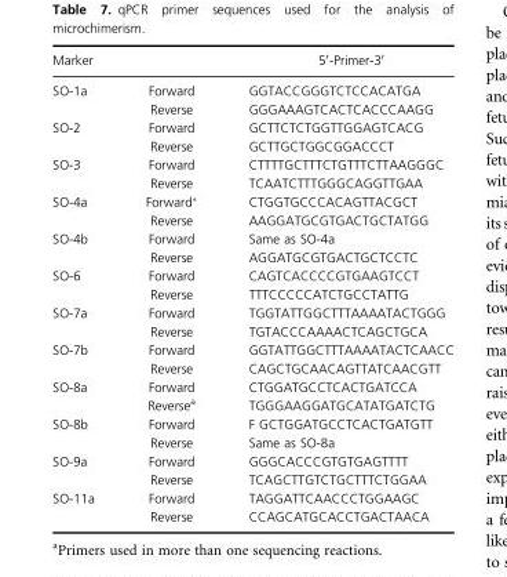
<table><thead><tr><td>Marker</td><td></td><td>5′-Primer-3′</td></tr></thead><tbody><tr><td rowspan="2">SO-1a</td><td>Forward</td><td>GGTACCGGGTCTCCACATGA</td></tr><tr><td>Reverse</td><td>GGGAAAGTCACTCACCCAAGG</td></tr><tr><td rowspan="2">SO-2</td><td>Forward</td><td>GCTTCTCTGGTTGGAGTCACG</td></tr><tr><td>Reverse</td><td>GCTTGCTGGCGGACCCT</td></tr><tr><td rowspan="2">SO-3</td><td>Forward</td><td>CTTTTGCTTTCTGTTTCTTAAGGGC</td></tr><tr><td>Reverse</td><td>TCAATCTTTGGGCAGGTTGAA</td></tr><tr><td rowspan="2">SO-4a</td><td>Forward<sup>a</sup></td><td>CTGGTGCCCACAGTTACGCT</td></tr><tr><td>Reverse</td><td>AAGGATGCGTGACTGCTATGG</td></tr><tr><td rowspan="2">SO-4b</td><td>Forward</td><td>Same as SO-4a</td></tr><tr><td>Reverse</td><td>AGGATGCGTGACTGCTCCTC</td></tr><tr><td rowspan="2">SO-6</td><td>Forward</td><td>CAGTCACCCCGTGAAGTCCT</td></tr><tr><td>Reverse</td><td>TTTCCCCCATCTGCCTATTG</td></tr><tr><td rowspan="2">SO-7a</td><td>Forward</td><td>TGGTATTGGCTTTAAAATACTGGG</td></tr><tr><td>Reverse</td><td>TGTACCCAAAACTCAGCTGCA</td></tr><tr><td rowspan="2">SO-7b</td><td>Forward</td><td>GGTATTGGCTTTAAAATACTCAACC</td></tr><tr><td>Reverse</td><td>CAGCTGCAACAGTTATCAACGTT</td></tr><tr><td rowspan="2">SO-8a</td><td>Forward</td><td>CTGGATGCCTCACTGATCCA</td></tr><tr><td>Reversea</td><td>TGGGAAGGATGCATATGATCTG</td></tr><tr><td rowspan="2">SO-8b</td><td>Forward</td><td>F GCTGGATGCCTCACTGATGTT</td></tr><tr><td>Reverse</td><td>Same as SO-8a</td></tr><tr><td rowspan="2">SO-9a</td><td>Forward</td><td>GGGCACCCGTGTGAGTTTT</td></tr><tr><td>Reverse</td><td>TCAGCTTGTCTGCTTTCTGGAA</td></tr><tr><td rowspan="2">SO-11a</td><td>Forward</td><td>TAGGATTCAACCCTGGAAGC</td></tr><tr><td>Reverse</td><td>CCAGCATGCACCTGACTAACA</td></tr></tbody></table>